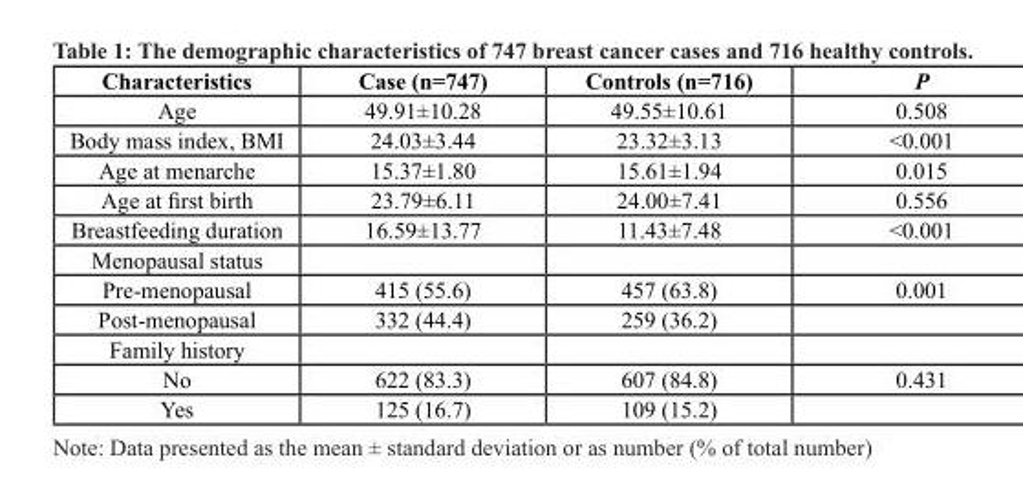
<table><thead><tr><td>Characteristics</td><td>Case (n=747)</td><td>Controls (n=716)</td><td>P</td></tr></thead><tbody><tr><td>Age</td><td>49.91±10.28</td><td>49.55±10.61</td><td>0.508</td></tr><tr><td>Body mass index, BMI</td><td>24.03±3.44</td><td>23.32±3.13</td><td>&lt;0.001</td></tr><tr><td>Age at menarche</td><td>15.37±1.80</td><td>15.61±1.94</td><td>0.015</td></tr><tr><td>Age at first birth</td><td>23.79±6.11</td><td>24.00±7.41</td><td>0.556</td></tr><tr><td>Breastfeeding duration</td><td>16.59±13.77</td><td>11.43±7.48</td><td>&lt;0.001</td></tr><tr><td colspan="4">Menopausal status</td></tr><tr><td>Pre-menopausal</td><td>415 (55.6)</td><td>457 (63.8)</td><td>0.001</td></tr><tr><td>Post-menopausal</td><td>332 (44.4)</td><td>259 (36.2)</td><td></td></tr><tr><td colspan="4">Family history</td></tr><tr><td>No</td><td>622 (83.3)</td><td>607 (84.8)</td><td>0.431</td></tr><tr><td>Yes</td><td>125 (16.7)</td><td>109 (15.2)</td><td></td></tr></tbody></table>